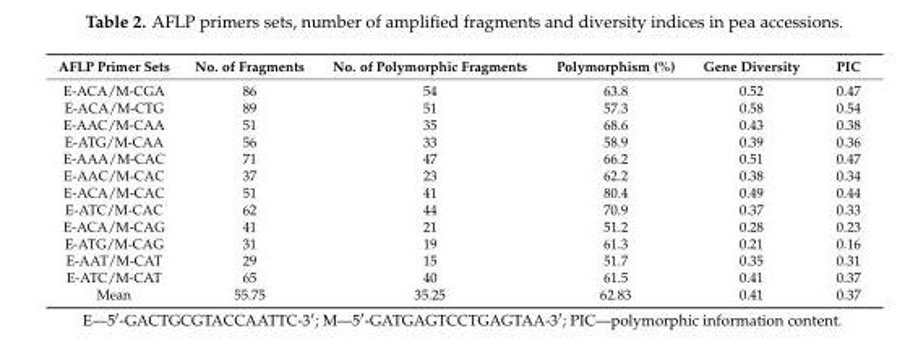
<table><thead><tr><td>AFLP Primer Sets</td><td>No. of Fragments</td><td>No. of Polymorphic Fragments</td><td>Polymorphism (%)</td><td>Gene Diversity</td><td>PIC</td></tr></thead><tbody><tr><td>E-ACA/M-CGA</td><td>86</td><td>54</td><td>63.8</td><td>0.52</td><td>0.47</td></tr><tr><td>E-ACA/M-CTG</td><td>89</td><td>51</td><td>57.3</td><td>0.58</td><td>0.54</td></tr><tr><td>E-AAC/M-CAA</td><td>51</td><td>35</td><td>68.6</td><td>0.43</td><td>0.38</td></tr><tr><td>E-ATG/M-CAA</td><td>56</td><td>33</td><td>58.9</td><td>0.39</td><td>0.36</td></tr><tr><td>E-AAA/M-CAC</td><td>71</td><td>47</td><td>66.2</td><td>0.51</td><td>0.47</td></tr><tr><td>E-AAC/M-CAC</td><td>37</td><td>23</td><td>62.2</td><td>0.38</td><td>0.34</td></tr><tr><td>E-ACA/M-CAC</td><td>51</td><td>41</td><td>80.4</td><td>0.49</td><td>0.44</td></tr><tr><td>E-ATC/M-CAC</td><td>62</td><td>44</td><td>70.9</td><td>0.37</td><td>0.33</td></tr><tr><td>E-ACA/M-CAG</td><td>41</td><td>21</td><td>51.2</td><td>0.28</td><td>0.23</td></tr><tr><td>E-ATG/M-CAG</td><td>31</td><td>19</td><td>61.3</td><td>0.21</td><td>0.16</td></tr><tr><td>E-AAT/M-CAT</td><td>29</td><td>15</td><td>51.7</td><td>0.35</td><td>0.31</td></tr><tr><td>E-ATC/M-CAT</td><td>65</td><td>40</td><td>61.5</td><td>0.41</td><td>0.37</td></tr><tr><td>Mean</td><td>55.75</td><td>35.25</td><td>62.83</td><td>0.41</td><td>0.37</td></tr></tbody></table>